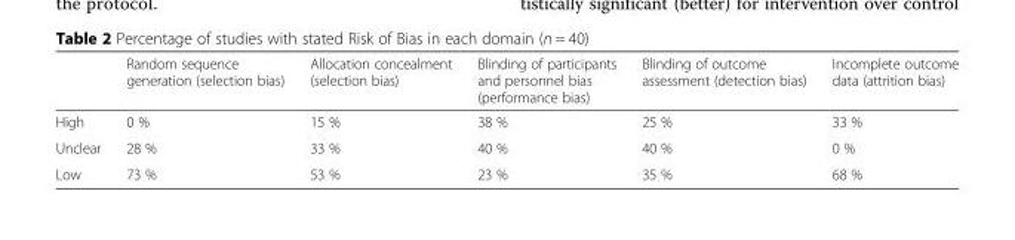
<table><thead><tr><td></td><td>Random sequence generation (selection bias)</td><td>Allocation concealment (selection bias)</td><td>Blinding of participants and personnel bias (performance bias)</td><td>Blinding of outcome assessment (detection bias)</td><td>Incomplete outcome data (attrition bias)</td></tr></thead><tbody><tr><td>High</td><td>0 %</td><td>15 %</td><td>38 %</td><td>25 %</td><td>33 %</td></tr><tr><td>Unclear</td><td>28 %</td><td>33 %</td><td>40 %</td><td>40 %</td><td>0 %</td></tr><tr><td>Low</td><td>73 %</td><td>53 %</td><td>23 %</td><td>35 %</td><td>68 %</td></tr></tbody></table>